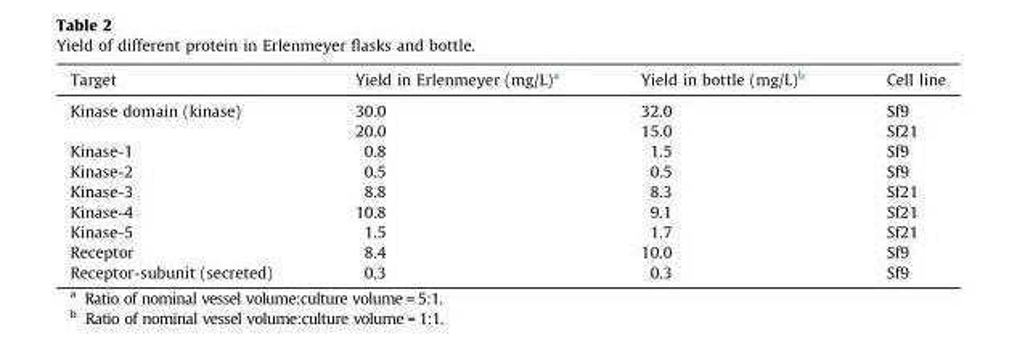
<table><thead><tr><td>Target</td><td>Yield in Erlenmeyer (mg/L)<sup>a</sup></td><td>Yield in bottle (mg/L)<sup>b</sup></td><td>Cell line</td></tr></thead><tbody><tr><td rowspan="2">Kinase domain (kinase)</td><td>30.0</td><td>32.0</td><td>Sf9</td></tr><tr><td>20.0</td><td>15.0</td><td>Sf21</td></tr><tr><td>Kinase-1</td><td>0.8</td><td>1.5</td><td>Sf9</td></tr><tr><td>Kinase-2</td><td>0.5</td><td>0.5</td><td>Sf9</td></tr><tr><td>Kinase-3</td><td>8.8</td><td>8.3</td><td>Sf21</td></tr><tr><td>Kinase-4</td><td>10.8</td><td>9.1</td><td>Sf21</td></tr><tr><td>Kinase-5</td><td>1.5</td><td>1.7</td><td>Sf21</td></tr><tr><td>Receptor</td><td>8.4</td><td>10.0</td><td>Sf9</td></tr><tr><td>Receptor-subunit (secreted)</td><td>0.3</td><td>0.3</td><td>Sf9</td></tr></tbody></table>